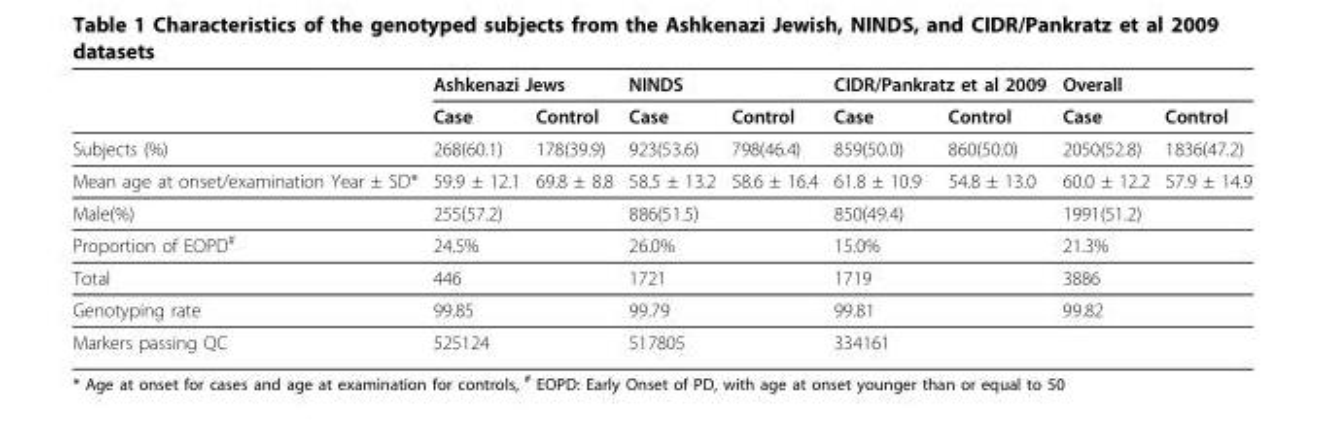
<table><thead><tr><td rowspan="2"></td><td colspan="2">Ashkenazi Jews</td><td colspan="2">NINDS</td><td colspan="2">CIDR/Pankratz et al 2009</td><td colspan="2">Overall</td></tr><tr><td>Case</td><td>Control</td><td>Case</td><td>Control</td><td>Case</td><td>Control</td><td>Case</td><td>Control</td></tr></thead><tbody><tr><td>Subjects (%)</td><td>268(60.1)</td><td>178(39.9)</td><td>923(53.6)</td><td>798(46.4)</td><td>859(50.0)</td><td>860(50.0)</td><td>2050(52.8)</td><td>1836(47.2)</td></tr><tr><td>Mean age at onset/examination Year ± SD*</td><td>59.9 ± 12.1</td><td>69.8 ± 8.8</td><td>58.5 ± 13.2</td><td>58.6 ± 16.4</td><td>61.8 ± 10.9</td><td>54.8 ± 13.0</td><td>60.0 ± 12.2</td><td>57.9 ± 14.9</td></tr><tr><td>Male(%)</td><td colspan="2">255(57.2)</td><td colspan="2">886(51.5)</td><td colspan="2">850(49.4)</td><td colspan="2">1991(51.2)</td></tr><tr><td>Proportion of EOPD<sup>#</sup></td><td colspan="2">24.5%</td><td colspan="2">26.0%</td><td colspan="2">15.0%</td><td colspan="2">21.3%</td></tr><tr><td>Total</td><td colspan="2">446</td><td colspan="2">1721</td><td colspan="2">1719</td><td colspan="2">3886</td></tr><tr><td>Genotyping rate</td><td colspan="2">99.85</td><td colspan="2">99.79</td><td colspan="2">99.81</td><td colspan="2">99.82</td></tr><tr><td>Markers passing QC</td><td colspan="2">525124</td><td colspan="2">517805</td><td colspan="2">334161</td><td colspan="2"></td></tr></tbody></table>